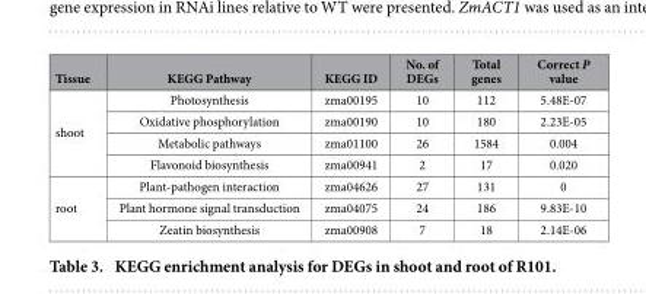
<table><thead><tr><td>Tissue</td><td>KEGG Pathway</td><td>KEGG ID</td><td>No. of DEGs</td><td>Total genes</td><td>Correct P value</td></tr></thead><tbody><tr><td rowspan="4">shoot</td><td>Photosynthesis</td><td>zma00195</td><td>10</td><td>112</td><td>5.48E-07</td></tr><tr><td>Oxidative phosphorylation</td><td>zma00190</td><td>10</td><td>180</td><td>2.23E-05</td></tr><tr><td>Metabolic pathways</td><td>zma01100</td><td>26</td><td>1584</td><td>0.004</td></tr><tr><td>Flavonoid biosynthesis</td><td>zma00941</td><td>2</td><td>17</td><td>0.020</td></tr><tr><td rowspan="3">root</td><td>Plant-pathogen interaction</td><td>zma04626</td><td>27</td><td>131</td><td>0</td></tr><tr><td>Plant hormone signal transduction</td><td>zma04075</td><td>24</td><td>186</td><td>9.83E-10</td></tr><tr><td>Zeatin biosynthesis</td><td>zma00908</td><td>7</td><td>18</td><td>2.14E-06</td></tr></tbody></table>